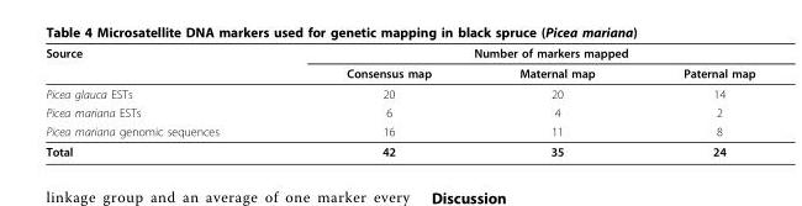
<table><thead><tr><td rowspan="2">Source</td><td colspan="3">Number of markers mapped</td></tr><tr><td>Consensus map</td><td>Maternal map</td><td>Paternal map</td></tr></thead><tbody><tr><td>Picea glauca ESTs</td><td>20</td><td>20</td><td>14</td></tr><tr><td>Picea mariana ESTs</td><td>6</td><td>4</td><td>2</td></tr><tr><td>Picea mariana genomic sequences</td><td>16</td><td>11</td><td>8</td></tr><tr><td>Total</td><td>42</td><td>35</td><td>24</td></tr></tbody></table>